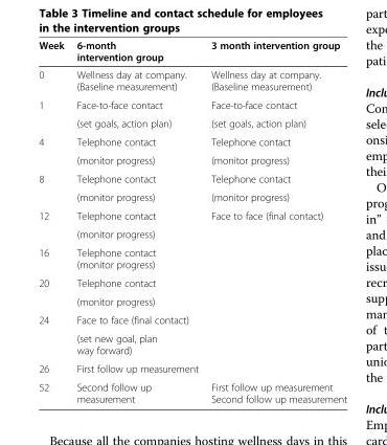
<table><thead><tr><td>Week</td><td>6-month intervention group</td><td>3 month intervention group</td></tr></thead><tbody><tr><td>0</td><td>Wellness day at company. (Baseline measurement)</td><td>Wellness day at company. (Baseline measurement)</td></tr><tr><td rowspan="2">1</td><td>Face-to-face contact</td><td>Face-to-face contact</td></tr><tr><td>(set goals, action plan)</td><td>(set goals, action plan)</td></tr><tr><td rowspan="2">4</td><td>Telephone contact</td><td>Telephone contact</td></tr><tr><td>(monitor progress)</td><td>(monitor progress)</td></tr><tr><td rowspan="2">8</td><td>Telephone contact</td><td>Telephone contact</td></tr><tr><td>(monitor progress)</td><td>(monitor progress)</td></tr><tr><td rowspan="2">12</td><td>Telephone contact</td><td>Face to face (final contact)</td></tr><tr><td>(monitor progress)</td><td></td></tr><tr><td>16</td><td>Telephone contact (monitor progress)</td><td></td></tr><tr><td rowspan="2">20</td><td>Telephone contact</td><td></td></tr><tr><td>(monitor progress)</td><td></td></tr><tr><td rowspan="2">24</td><td>Face to face (final contact)</td><td></td></tr><tr><td>(set new goal, plan way forward)</td><td></td></tr><tr><td>26</td><td>First follow up measurement</td><td></td></tr><tr><td>52</td><td>Second follow up measurement</td><td>First follow up measurement Second follow up measurement</td></tr></tbody></table>